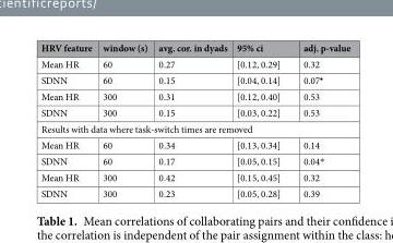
<table><thead><tr><td>HRV feature</td><td>window (s)</td><td>avg. cor. in dyads</td><td>95% ci</td><td>adj. p-value</td></tr></thead><tbody><tr><td>Mean HR</td><td>60</td><td>0.27</td><td>[0.12, 0.29]</td><td>0.32</td></tr><tr><td>SDNN</td><td>60</td><td>0.15</td><td>[0.04, 0.14]</td><td>0.07<sup>•</sup></td></tr><tr><td>Mean HR</td><td>300</td><td>0.31</td><td>[0.12, 0.40]</td><td>0.53</td></tr><tr><td>SDNN</td><td>300</td><td>0.15</td><td>[0.03, 0.22]</td><td>0.53</td></tr><tr><td colspan="5">Results with data where task-switch times are removed</td></tr><tr><td>Mean HR</td><td>60</td><td>0.34</td><td>[0.13, 0.34]</td><td>0.14</td></tr><tr><td>SDNN</td><td>60</td><td>0.17</td><td>[0.05, 0.15]</td><td>0.04*</td></tr><tr><td>Mean HR</td><td>300</td><td>0.42</td><td>[0.15, 0.45]</td><td>0.32</td></tr><tr><td>SDNN</td><td>300</td><td>0.23</td><td>[0.05, 0.28]</td><td>0.39</td></tr></tbody></table>